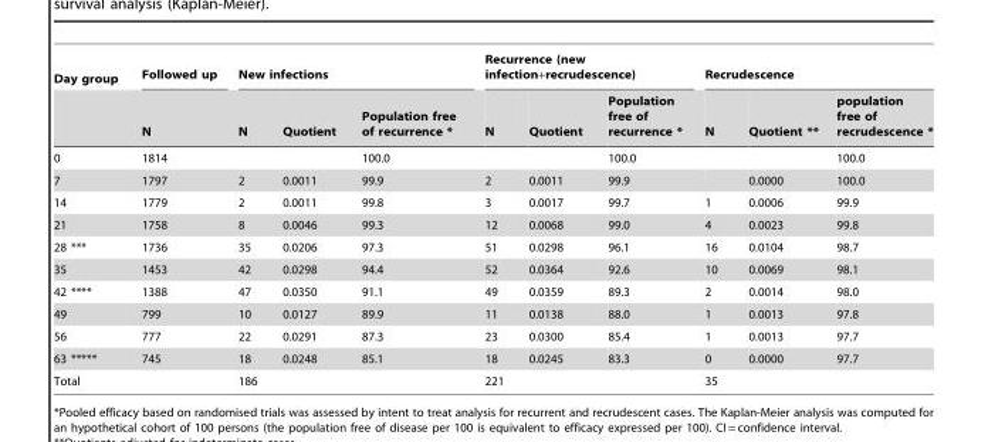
<table><thead><tr><td rowspan="2">Day group</td><td rowspan="2">Followed up N</td><td colspan="3">New infections</td><td colspan="3">Recurrence (new infection+recrudescence)</td><td colspan="3">Recrudescence</td></tr><tr><td>N</td><td>Quotient</td><td>Population free of recurrence *</td><td>N</td><td>Quotient</td><td>Population free of recurrence *</td><td>N</td><td>Quotient **</td><td>population free of recrudescence *</td></tr></thead><tbody><tr><td>0</td><td>1814</td><td></td><td></td><td>100.0</td><td></td><td></td><td>100.0</td><td></td><td></td><td>100.0</td></tr><tr><td>7</td><td>1797</td><td>2</td><td>0.0011</td><td>99.9</td><td>2</td><td>0.0011</td><td>99.9</td><td></td><td>0.0000</td><td>100.0</td></tr><tr><td>14</td><td>1779</td><td>2</td><td>0.0011</td><td>99.8</td><td>3</td><td>0.0017</td><td>99.7</td><td>1</td><td>0.0006</td><td>99.9</td></tr><tr><td>21</td><td>1758</td><td>8</td><td>0.0046</td><td>99.3</td><td>12</td><td>0.0068</td><td>99.0</td><td>4</td><td>0.0023</td><td>99.8</td></tr><tr><td>28 ***</td><td>1736</td><td>35</td><td>0.0206</td><td>97.3</td><td>51</td><td>0.0298</td><td>96.1</td><td>16</td><td>0.0104</td><td>98.7</td></tr><tr><td>35</td><td>1453</td><td>42</td><td>0.0298</td><td>94.4</td><td>52</td><td>0.0364</td><td>92.6</td><td>10</td><td>0.0069</td><td>98.1</td></tr><tr><td>42 ****</td><td>1388</td><td>47</td><td>0.0350</td><td>91.1</td><td>49</td><td>0.0359</td><td>89.3</td><td>2</td><td>0.0014</td><td>98.0</td></tr><tr><td>49</td><td>799</td><td>10</td><td>0.0127</td><td>89.9</td><td>11</td><td>0.0138</td><td>88.0</td><td>1</td><td>0.0013</td><td>97.8</td></tr><tr><td>56</td><td>777</td><td>22</td><td>0.0291</td><td>87.3</td><td>23</td><td>0.0300</td><td>85.4</td><td>1</td><td>0.0013</td><td>97.7</td></tr><tr><td>63 *****</td><td>745</td><td>18</td><td>0.0248</td><td>85.1</td><td>18</td><td>0.0245</td><td>83.3</td><td>0</td><td>0.0000</td><td>97.7</td></tr><tr><td colspan="2">Total</td><td>186</td><td></td><td></td><td>221</td><td></td><td></td><td>35</td><td></td><td></td></tr></tbody></table>